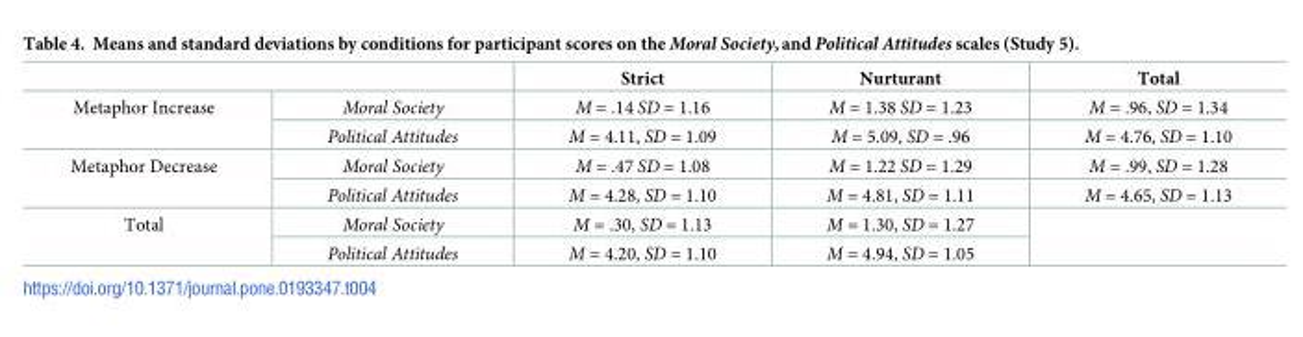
<table><thead><tr><td></td><td></td><td>Strict</td><td>Nurturant</td><td>Total</td></tr></thead><tbody><tr><td rowspan="2">Metaphor Increase</td><td>Moral Society</td><td>M = .14 SD = 1.16</td><td>M = 1.38 SD = 1.23</td><td>M = .96, SD = 1.34</td></tr><tr><td>Political Attitudes</td><td>M = 4.11, SD = 1.09</td><td>M = 5.09, SD = .96</td><td>M = 4.76, SD = 1.10</td></tr><tr><td rowspan="2">Metaphor Decrease</td><td>Moral Society</td><td>M = .47 SD = 1.08</td><td>M = 1.22 SD = 1.29</td><td>M = .99, SD = 1.28</td></tr><tr><td>Political Attitudes</td><td>M = 4.28, SD = 1.10</td><td>M = 4.81, SD = 1.11</td><td>M = 4.65, SD = 1.13</td></tr><tr><td rowspan="2">Total</td><td>Moral Society</td><td>M = .30, SD = 1.13</td><td>M = 1.30, SD = 1.27</td><td rowspan="2"></td></tr><tr><td>Political Attitudes</td><td>M = 4.20, SD = 1.10</td><td>M = 4.94, SD = 1.05</td></tr></tbody></table>